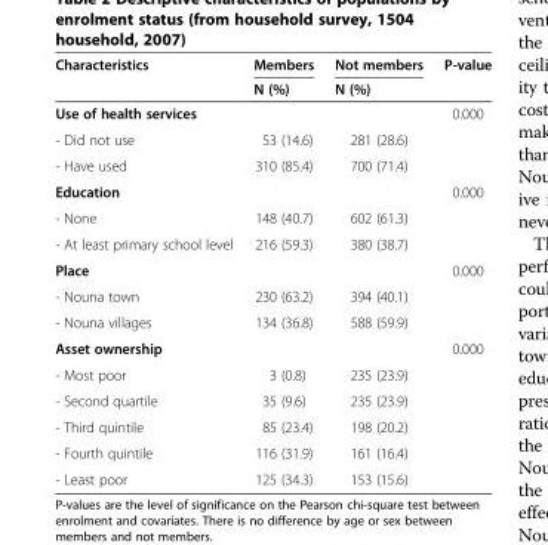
<table><thead><tr><td rowspan="2">Characteristics</td><td rowspan="2">Members N (%)</td><td rowspan="2">Not members N (%)</td><td rowspan="2">P-value</td></tr><tr></tr></thead><tbody><tr><td>Use of health services</td><td></td><td></td><td>0.000</td></tr><tr><td>- Did not use</td><td>53 (14.6)</td><td>281 (28.6)</td><td></td></tr><tr><td>- Have used</td><td>310 (85.4)</td><td>700 (71.4)</td><td></td></tr><tr><td>Education</td><td></td><td></td><td>0.000</td></tr><tr><td>- None</td><td>148 (40.7)</td><td>602 (61.3)</td><td></td></tr><tr><td>- At least primary school level</td><td>216 (59.3)</td><td>380 (38.7)</td><td></td></tr><tr><td>Place</td><td></td><td></td><td>0.000</td></tr><tr><td>- Nouna town</td><td>230 (63.2)</td><td>394 (40.1)</td><td></td></tr><tr><td>- Nouna villages</td><td>134 (36.8)</td><td>588 (59.9)</td><td></td></tr><tr><td>Asset ownership</td><td></td><td></td><td>0.000</td></tr><tr><td>- Most poor</td><td>3 (0.8)</td><td>235 (23.9)</td><td></td></tr><tr><td>- Second quartile</td><td>35 (9.6)</td><td>235 (23.9)</td><td></td></tr><tr><td>- Third quintile</td><td>85 (23.4)</td><td>198 (20.2)</td><td></td></tr><tr><td>- Fourth quintile</td><td>116 (31.9)</td><td>161 (16.4)</td><td></td></tr><tr><td>- Least poor</td><td>125 (34.3)</td><td>153 (15.6)</td><td></td></tr></tbody></table>